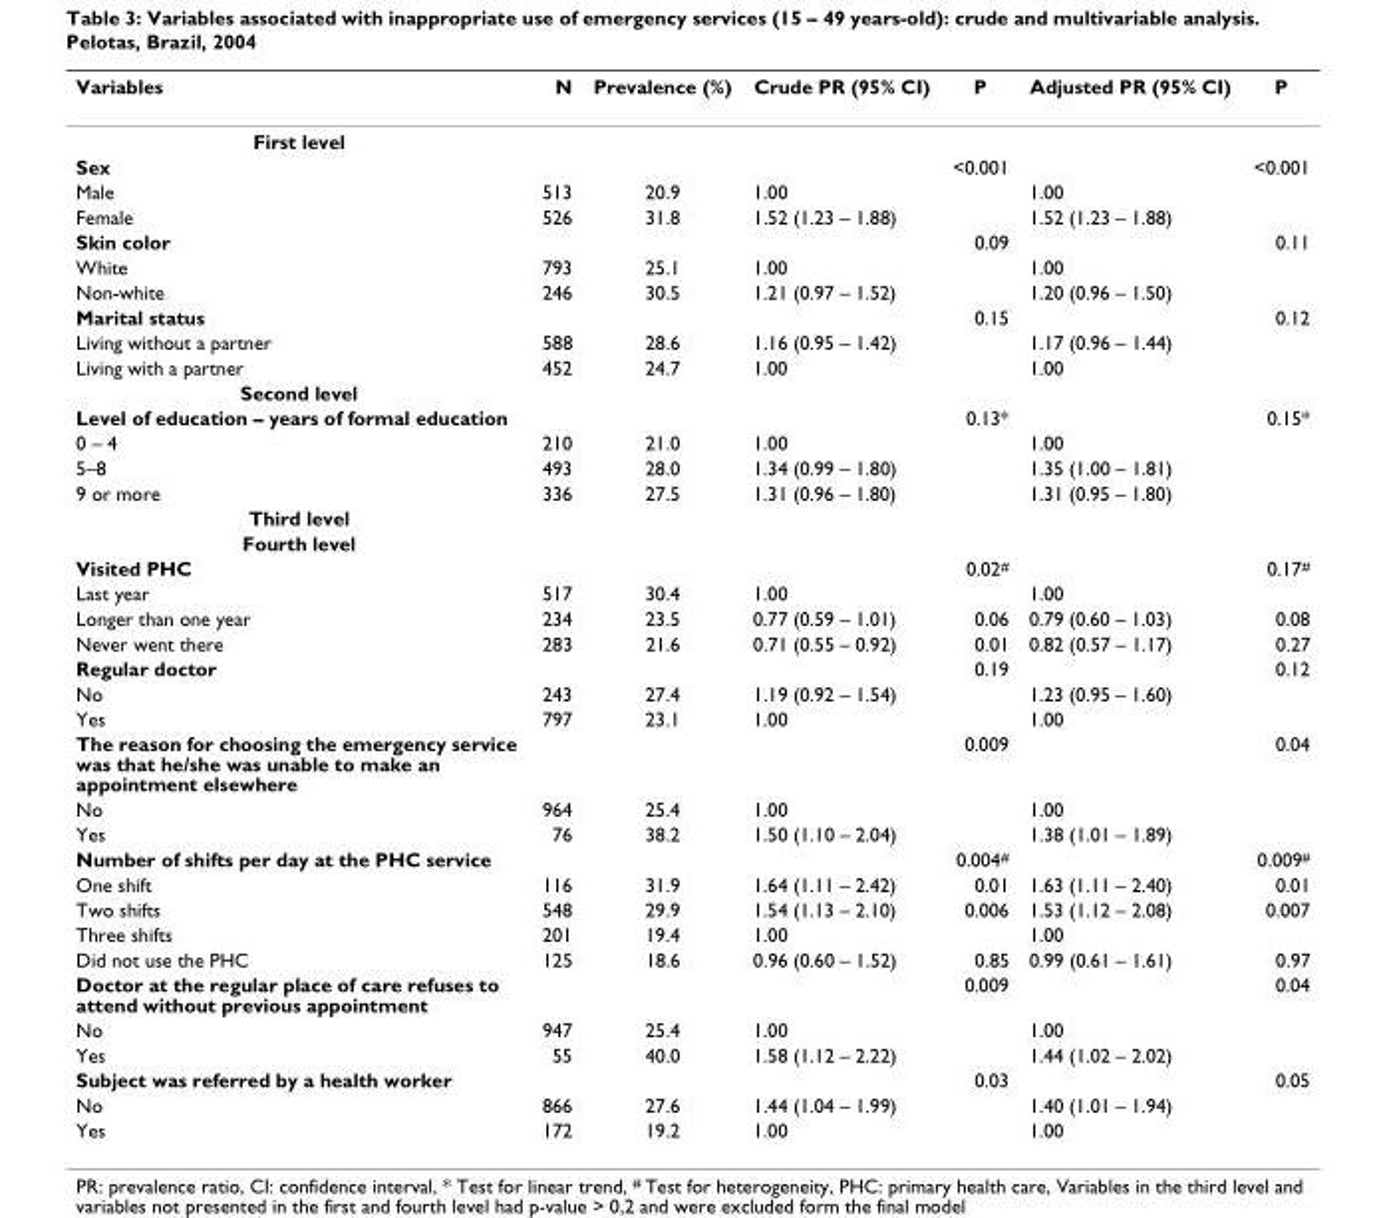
<table><thead><tr><td>Variables</td><td>N</td><td>Prevalence (%)</td><td>Crude PR (95% CI)</td><td>P</td><td>Adjusted PR (95% CI)</td><td>P</td></tr></thead><tbody><tr><td colspan="7">First level</td></tr><tr><td>Sex</td><td></td><td></td><td></td><td>&lt;0.001</td><td></td><td>&lt;0.001</td></tr><tr><td>Male</td><td>513</td><td>20.9</td><td>1.00</td><td></td><td>1.00</td><td></td></tr><tr><td>Female</td><td>526</td><td>31.8</td><td>1.52 (1.23 – 1.88)</td><td></td><td>1.52 (1.23 – 1.88)</td><td></td></tr><tr><td>Skin color</td><td></td><td></td><td></td><td>0.09</td><td></td><td>0.11</td></tr><tr><td>White</td><td>793</td><td>25.1</td><td>1.00</td><td></td><td>1.00</td><td></td></tr><tr><td>Non-white</td><td>246</td><td>30.5</td><td>1.21 (0.97 – 1.52)</td><td></td><td>1.20 (0.96 – 1.50)</td><td></td></tr><tr><td>Marital status</td><td></td><td></td><td></td><td>0.15</td><td></td><td>0.12</td></tr><tr><td>Living without a partner</td><td>588</td><td>28.6</td><td>1.16 (0.95 – 1.42)</td><td></td><td>1.17 (0.96 – 1.44)</td><td></td></tr><tr><td>Living with a partner</td><td>452</td><td>24.7</td><td>1.00</td><td></td><td>1.00</td><td></td></tr><tr><td colspan="7">Second level</td></tr><tr><td>Level of education – years of formal education</td><td></td><td></td><td></td><td>0.13*</td><td></td><td>0.15*</td></tr><tr><td>0 – 4</td><td>210</td><td>21.0</td><td>1.00</td><td></td><td>1.00</td><td></td></tr><tr><td>5–8</td><td>493</td><td>28.0</td><td>1.34 (0.99 – 1.80)</td><td></td><td>1.35 (1.00 – 1.81)</td><td></td></tr><tr><td>9 or more</td><td>336</td><td>27.5</td><td>1.31 (0.96 – 1.80)</td><td></td><td>1.31 (0.95 – 1.80)</td><td></td></tr><tr><td colspan="7">Third level</td></tr><tr><td colspan="7">Fourth level</td></tr><tr><td>Visited PHC</td><td></td><td></td><td></td><td>0.02<sup>#</sup></td><td></td><td>0.17<sup>#</sup></td></tr><tr><td>Last year</td><td>517</td><td>30.4</td><td>1.00</td><td></td><td>1.00</td><td></td></tr><tr><td>Longer than one year</td><td>234</td><td>23.5</td><td>0.77 (0.59 – 1.01)</td><td>0.06</td><td>0.79 (0.60 – 1.03)</td><td>0.08</td></tr><tr><td>Never went there</td><td>283</td><td>21.6</td><td>0.71 (0.55 – 0.92)</td><td>0.01</td><td>0.82 (0.57 – 1.17)</td><td>0.27</td></tr><tr><td>Regular doctor</td><td></td><td></td><td></td><td>0.19</td><td></td><td>0.12</td></tr><tr><td>No</td><td>243</td><td>27.4</td><td>1.19 (0.92 – 1.54)</td><td></td><td>1.23 (0.95 – 1.60)</td><td></td></tr><tr><td>Yes</td><td>797</td><td>23.1</td><td>1.00</td><td></td><td>1.00</td><td></td></tr><tr><td>The reason for choosing the emergency service was that he/she was unable to make an appointment elsewhere</td><td></td><td></td><td></td><td>0.009</td><td></td><td>0.04</td></tr><tr><td>No</td><td>964</td><td>25.4</td><td>1.00</td><td></td><td>1.00</td><td></td></tr><tr><td>Yes</td><td>76</td><td>38.2</td><td>1.50 (1.10 – 2.04)</td><td></td><td>1.38 (1.01 – 1.89)</td><td></td></tr><tr><td>Number of shifts per day at the PHC service</td><td></td><td></td><td></td><td>0.004<sup>#</sup></td><td></td><td>0.009<sup>#</sup></td></tr><tr><td>One shift</td><td>116</td><td>31.9</td><td>1.64 (1.11 – 2.42)</td><td>0.01</td><td>1.63 (1.11 – 2.40)</td><td>0.01</td></tr><tr><td>Two shifts</td><td>548</td><td>29.9</td><td>1.54 (1.13 – 2.10)</td><td>0.006</td><td>1.53 (1.12 – 2.08)</td><td>0.007</td></tr><tr><td>Three shifts</td><td>201</td><td>19.4</td><td>1.00</td><td></td><td>1.00</td><td></td></tr><tr><td>Did not use the PHC</td><td>125</td><td>18.6</td><td>0.96 (0.60 – 1.52)</td><td>0.85</td><td>0.99 (0.61 – 1.61)</td><td>0.97</td></tr><tr><td>Doctor at the regular place of care refuses to attend without previous appointment</td><td></td><td></td><td></td><td>0.009</td><td></td><td>0.04</td></tr><tr><td>No</td><td>947</td><td>25.4</td><td>1.00</td><td></td><td>1.00</td><td></td></tr><tr><td>Yes</td><td>55</td><td>40.0</td><td>1.58 (1.12 – 2.22)</td><td></td><td>1.44 (1.02 – 2.02)</td><td></td></tr><tr><td>Subject was referred by a health worker</td><td></td><td></td><td></td><td>0.03</td><td></td><td>0.05</td></tr><tr><td>No</td><td>866</td><td>27.6</td><td>1.44 (1.04 – 1.99)</td><td></td><td>1.40 (1.01 – 1.94)</td><td></td></tr><tr><td>Yes</td><td>172</td><td>19.2</td><td>1.00</td><td></td><td>1.00</td><td></td></tr></tbody></table>